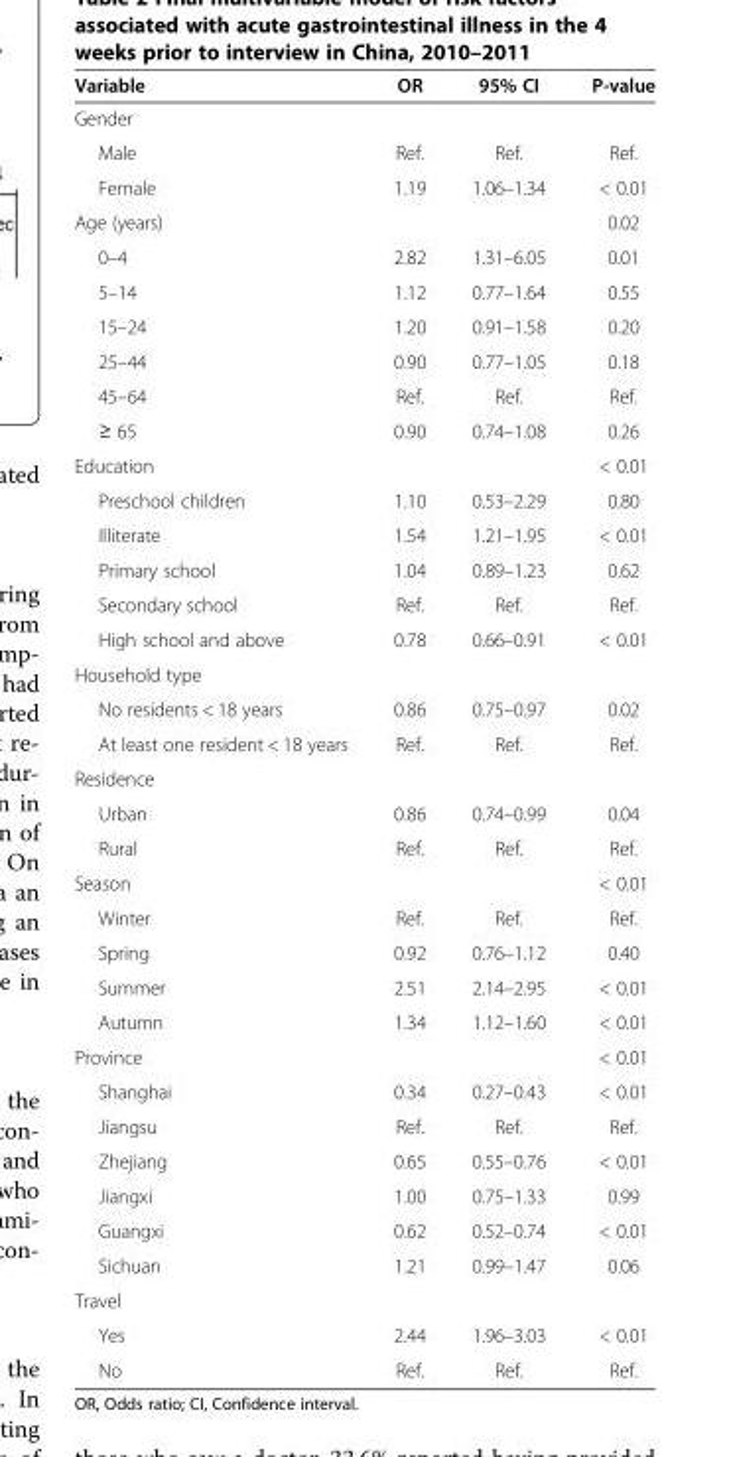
<table><thead><tr><td>Variable</td><td>OR</td><td>95% CI</td><td>P-value</td></tr></thead><tbody><tr><td colspan="4">Gender</td></tr><tr><td>Male</td><td>Ref.</td><td>Ref.</td><td>Ref.</td></tr><tr><td>Female</td><td>1.19</td><td>1.06–1.34</td><td>&lt; 0.01</td></tr><tr><td>Age (years)</td><td></td><td></td><td>0.02</td></tr><tr><td>0–4</td><td>2.82</td><td>1.31–6.05</td><td>0.01</td></tr><tr><td>5–14</td><td>1.12</td><td>0.77–1.64</td><td>0.55</td></tr><tr><td>15–24</td><td>1.20</td><td>0.91–1.58</td><td>0.20</td></tr><tr><td>25–44</td><td>0.90</td><td>0.77–1.05</td><td>0.18</td></tr><tr><td>45–64</td><td>Ref.</td><td>Ref.</td><td>Ref.</td></tr><tr><td>≥ 65</td><td>0.90</td><td>0.74–1.08</td><td>0.26</td></tr><tr><td>Education</td><td></td><td></td><td>&lt; 0.01</td></tr><tr><td>Preschool children</td><td>1.10</td><td>0.53–2.29</td><td>0.80</td></tr><tr><td>Illiterate</td><td>1.54</td><td>1.21–1.95</td><td>&lt; 0.01</td></tr><tr><td>Primary school</td><td>1.04</td><td>0.89–1.23</td><td>0.62</td></tr><tr><td>Secondary school</td><td>Ref.</td><td>Ref.</td><td>Ref.</td></tr><tr><td>High school and above</td><td>0.78</td><td>0.66–0.91</td><td>&lt; 0.01</td></tr><tr><td colspan="4">Household type</td></tr><tr><td>No residents &lt; 18 years</td><td>0.86</td><td>0.75–0.97</td><td>0.02</td></tr><tr><td>At least one resident &lt; 18 years</td><td>Ref.</td><td>Ref.</td><td>Ref.</td></tr><tr><td colspan="4">Residence</td></tr><tr><td>Urban</td><td>0.86</td><td>0.74–0.99</td><td>0.04</td></tr><tr><td>Rural</td><td>Ref.</td><td>Ref.</td><td>Ref.</td></tr><tr><td>Season</td><td></td><td></td><td>&lt; 0.01</td></tr><tr><td>Winter</td><td>Ref.</td><td>Ref.</td><td>Ref.</td></tr><tr><td>Spring</td><td>0.92</td><td>0.76–1.12</td><td>0.40</td></tr><tr><td>Summer</td><td>2.51</td><td>2.14–2.95</td><td>&lt; 0.01</td></tr><tr><td>Autumn</td><td>1.34</td><td>1.12–1.60</td><td>&lt; 0.01</td></tr><tr><td>Province</td><td></td><td></td><td>&lt; 0.01</td></tr><tr><td>Shanghai</td><td>0.34</td><td>0.27–0.43</td><td>&lt; 0.01</td></tr><tr><td>Jiangsu</td><td>Ref.</td><td>Ref.</td><td>Ref.</td></tr><tr><td>Zhejiang</td><td>0.65</td><td>0.55–0.76</td><td>&lt; 0.01</td></tr><tr><td>Jiangxi</td><td>1.00</td><td>0.75–1.33</td><td>0.99</td></tr><tr><td>Guangxi</td><td>0.62</td><td>0.52–0.74</td><td>&lt; 0.01</td></tr><tr><td>Sichuan</td><td>1.21</td><td>0.99–1.47</td><td>0.06</td></tr><tr><td colspan="4">Travel</td></tr><tr><td>Yes</td><td>2.44</td><td>1.96–3.03</td><td>&lt; 0.01</td></tr><tr><td>No</td><td>Ref.</td><td>Ref.</td><td>Ref.</td></tr></tbody></table>